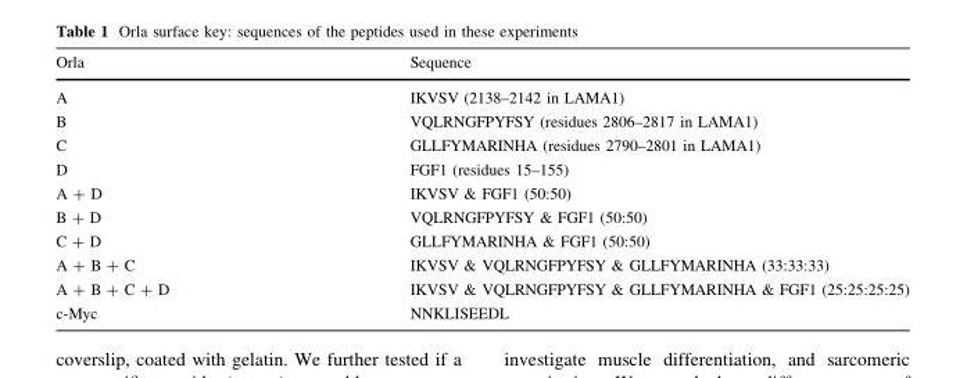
<table><thead><tr><td>Orla</td><td>Sequence</td></tr></thead><tbody><tr><td>A</td><td>IKVSV (2138–2142 in LAMA1)</td></tr><tr><td>B</td><td>VQLRNGFPYFSY (residues 2806–2817 in LAMA1)</td></tr><tr><td>C</td><td>GLLFYMARINHA (residues 2790–2801 in LAMA1)</td></tr><tr><td>D</td><td>FGF1 (residues 15–155)</td></tr><tr><td>A + D</td><td>IKVSV &amp; FGF1 (50:50)</td></tr><tr><td>B + D</td><td>VQLRNGFPYFSY &amp; FGF1 (50:50)</td></tr><tr><td>C + D</td><td>GLLFYMARINHA &amp; FGF1 (50:50)</td></tr><tr><td>A + B + C</td><td>IKVSV &amp; VQLRNGFPYFSY &amp; GLLFYMARINHA (33:33:33)</td></tr><tr><td>A + B + C + D</td><td>IKVSV &amp; VQLRNGFPYFSY &amp; GLLFYMARINHA &amp; FGF1 (25:25:25:25)</td></tr><tr><td>c-Myc</td><td>NNKLISEEDL</td></tr></tbody></table>